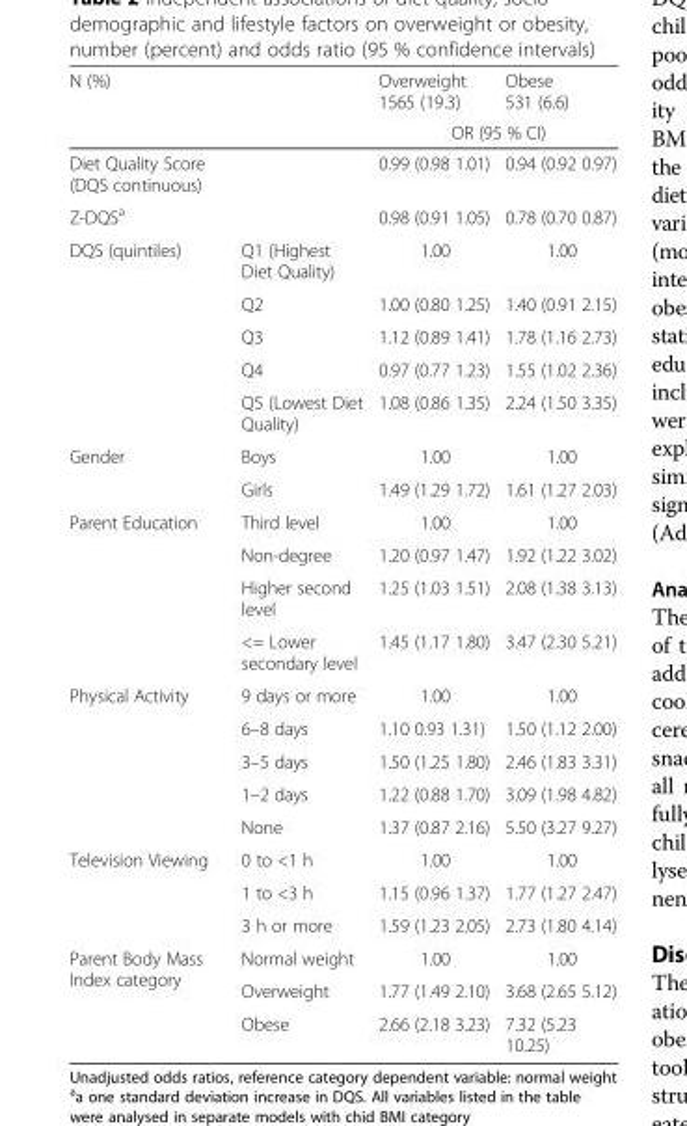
<table><thead><tr><td colspan="2">N (%)</td><td>Overweight 1565 (19.3)</td><td>Obese 531 (6.6)</td></tr><tr><td></td><td></td><td colspan="2">OR (95 % CI)</td></tr></thead><tbody><tr><td>Diet Quality Score (DQS continuous)</td><td></td><td>0.99 (0.98 1.01)</td><td>0.94 (0.92 0.97)</td></tr><tr><td>Z-DQS<sup>a</sup></td><td></td><td>0.98 (0.91 1.05)</td><td>0.78 (0.70 0.87)</td></tr><tr><td rowspan="5">DQS (quintiles)</td><td>Q1 (Highest Diet Quality)</td><td>1.00</td><td>1.00</td></tr><tr><td>Q2</td><td>1.00 (0.80 1.25)</td><td>1.40 (0.91 2.15)</td></tr><tr><td>Q3</td><td>1.12 (0.89 1.41)</td><td>1.78 (1.16 2.73)</td></tr><tr><td>Q4</td><td>0.97 (0.77 1.23)</td><td>1.55 (1.02 2.36)</td></tr><tr><td>Q5 (Lowest Diet Quality)</td><td>1.08 (0.86 1.35)</td><td>2.24 (1.50 3.35)</td></tr><tr><td rowspan="2">Gender</td><td>Boys</td><td>1.00</td><td>1.00</td></tr><tr><td>Girls</td><td>1.49 (1.29 1.72)</td><td>1.61 (1.27 2.03)</td></tr><tr><td rowspan="4">Parent Education</td><td>Third level</td><td>1.00</td><td>1.00</td></tr><tr><td>Non-degree</td><td>1.20 (0.97 1.47)</td><td>1.92 (1.22 3.02)</td></tr><tr><td>Higher second level</td><td>1.25 (1.03 1.51)</td><td>2.08 (1.38 3.13)</td></tr><tr><td>&lt;= Lower secondary level</td><td>1.45 (1.17 1.80)</td><td>3.47 (2.30 5.21)</td></tr><tr><td rowspan="5">Physical Activity</td><td>9 days or more</td><td>1.00</td><td>1.00</td></tr><tr><td>6–8 days</td><td>1.10 0.93 1.31)</td><td>1.50 (1.12 2.00)</td></tr><tr><td>3–5 days</td><td>1.50 (1.25 1.80)</td><td>2.46 (1.83 3.31)</td></tr><tr><td>1–2 days</td><td>1.22 (0.88 1.70)</td><td>3.09 (1.98 4.82)</td></tr><tr><td>None</td><td>1.37 (0.87 2.16)</td><td>5.50 (3.27 9.27)</td></tr><tr><td rowspan="3">Television Viewing</td><td>0 to &lt;1 h</td><td>1.00</td><td>1.00</td></tr><tr><td>1 to &lt;3 h</td><td>1.15 (0.96 1.37)</td><td>1.77 (1.27 2.47)</td></tr><tr><td>3 h or more</td><td>1.59 (1.23 2.05)</td><td>2.73 (1.80 4.14)</td></tr><tr><td rowspan="3">Parent Body Mass Index category</td><td>Normal weight</td><td>1.00</td><td>1.00</td></tr><tr><td>Overweight</td><td>1.77 (1.49 2.10)</td><td>3.68 (2.65 5.12)</td></tr><tr><td>Obese</td><td>2.66 (2.18 3.23)</td><td>7.32 (5.23 10.25)</td></tr></tbody></table>